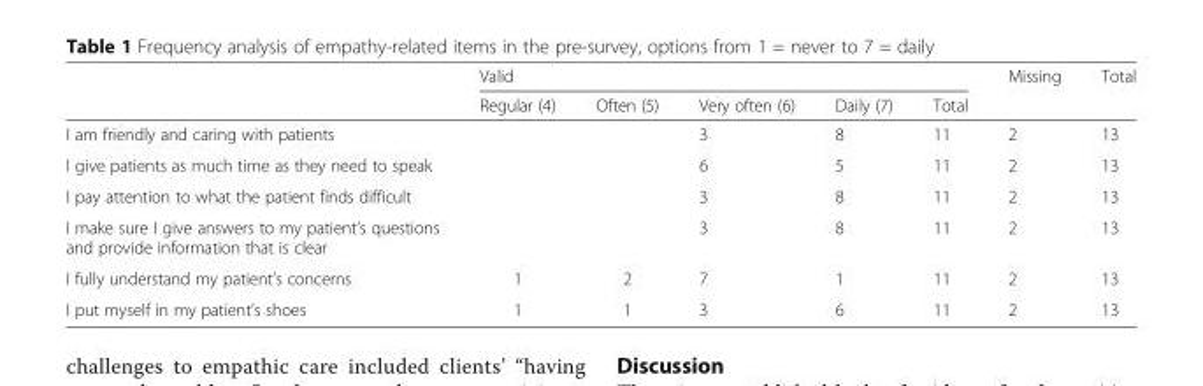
<table><thead><tr><td rowspan="2"></td><td colspan="5">Valid</td><td rowspan="2">Missing</td><td rowspan="2">Total</td></tr><tr><td>Regular (4)</td><td>Often (5)</td><td>Very often (6)</td><td>Daily (7)</td><td>Total</td></tr></thead><tbody><tr><td>I am friendly and caring with patients</td><td></td><td></td><td>3</td><td>8</td><td>11</td><td>2</td><td>13</td></tr><tr><td>I give patients as much time as they need to speak</td><td></td><td></td><td>6</td><td>5</td><td>11</td><td>2</td><td>13</td></tr><tr><td>I pay attention to what the patient finds difficult</td><td></td><td></td><td>3</td><td>8</td><td>11</td><td>2</td><td>13</td></tr><tr><td>I make sure I give answers to my patient’s questions and provide information that is clear</td><td></td><td></td><td>3</td><td>8</td><td>11</td><td>2</td><td>13</td></tr><tr><td>I fully understand my patient’s concerns</td><td>1</td><td>2</td><td>7</td><td>1</td><td>11</td><td>2</td><td>13</td></tr><tr><td>I put myself in my patient’s shoes</td><td>1</td><td>1</td><td>3</td><td>6</td><td>11</td><td>2</td><td>13</td></tr></tbody></table>